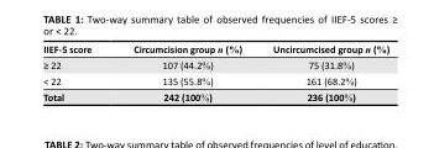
<table><thead><tr><td>IIEF-5 score</td><td>Circumcision group n (%)</td><td>Uncircumcised group n (%)</td></tr></thead><tbody><tr><td>≥ 22</td><td>107 (44.2%)</td><td>75 (31.8%)</td></tr><tr><td>&lt; 22</td><td>135 (55.8%)</td><td>161 (68.2%)</td></tr><tr><td>Total</td><td>242 (100%)</td><td>236 (100%)</td></tr></tbody></table>